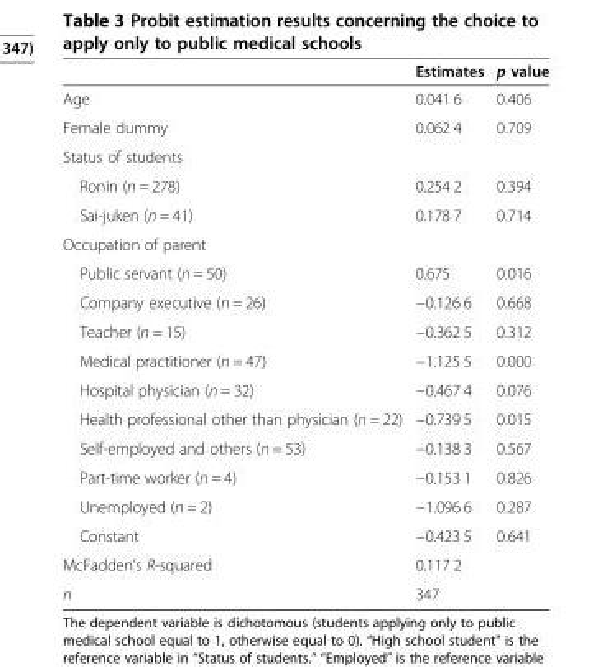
<table><thead><tr><td></td><td>Estimates</td><td>p value</td></tr></thead><tbody><tr><td>Age</td><td>0.041 6</td><td>0.406</td></tr><tr><td>Female dummy</td><td>0.062 4</td><td>0.709</td></tr><tr><td colspan="3">Status of students</td></tr><tr><td>Ronin (n = 278)</td><td>0.254 2</td><td>0.394</td></tr><tr><td>Sai-juken (n = 41)</td><td>0.178 7</td><td>0.714</td></tr><tr><td colspan="3">Occupation of parent</td></tr><tr><td>Public servant (n = 50)</td><td>0.675</td><td>0.016</td></tr><tr><td>Company executive (n = 26)</td><td>−0.126 6</td><td>0.668</td></tr><tr><td>Teacher (n = 15)</td><td>−0.362 5</td><td>0.312</td></tr><tr><td>Medical practitioner (n = 47)</td><td>−1.125 5</td><td>0.000</td></tr><tr><td>Hospital physician (n = 32)</td><td>−0.467 4</td><td>0.076</td></tr><tr><td>Health professional other than physician (n = 22)</td><td>−0.739 5</td><td>0.015</td></tr><tr><td>Self-employed and others (n = 53)</td><td>−0.138 3</td><td>0.567</td></tr><tr><td>Part-time worker (n = 4)</td><td>−0.153 1</td><td>0.826</td></tr><tr><td>Unemployed (n = 2)</td><td>−1.096 6</td><td>0.287</td></tr><tr><td>Constant</td><td>−0.423 5</td><td>0.641</td></tr><tr><td>McFadden’s R-squared</td><td colspan="2">0.117 2</td></tr><tr><td>n</td><td colspan="2">347</td></tr></tbody></table>